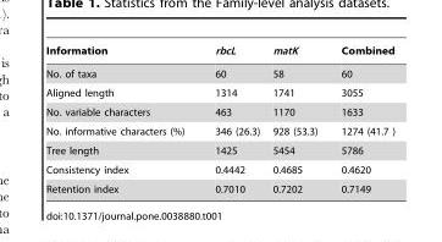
<table><thead><tr><td>Information</td><td>rbcL</td><td>matK</td><td>Combined</td></tr></thead><tbody><tr><td>No. of taxa</td><td>60</td><td>58</td><td>60</td></tr><tr><td>Aligned length</td><td>1314</td><td>1741</td><td>3055</td></tr><tr><td>No. variable characters</td><td>463</td><td>1170</td><td>1633</td></tr><tr><td>No. informative characters (%)</td><td>346 (26.3)</td><td>928 (53.3)</td><td>1274 (41.7 )</td></tr><tr><td>Tree length</td><td>1425</td><td>5454</td><td>5786</td></tr><tr><td>Consistency index</td><td>0.4442</td><td>0.4685</td><td>0.4620</td></tr><tr><td>Retention index</td><td>0.7010</td><td>0.7202</td><td>0.7149</td></tr></tbody></table>